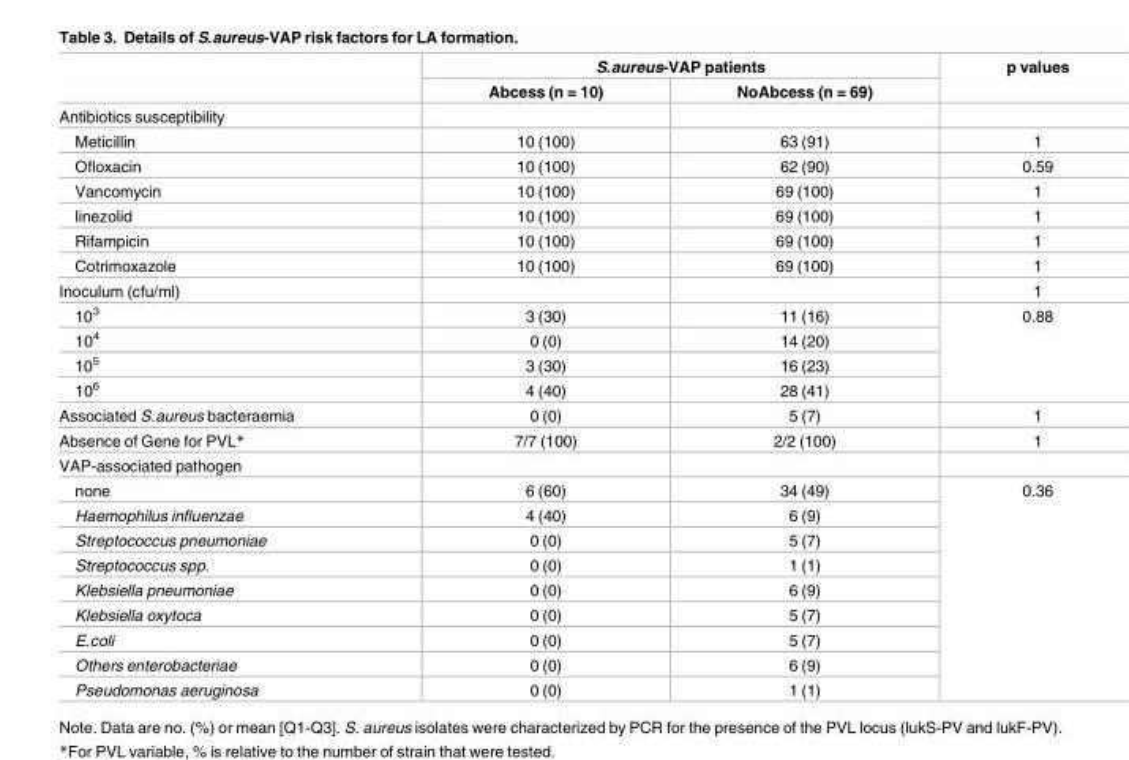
<table><thead><tr><td rowspan="2"></td><td colspan="2">S.aureus-VAP patients</td><td rowspan="2">p values</td></tr><tr><td>Abcess (n = 10)</td><td>NoAbcess (n = 69)</td></tr></thead><tbody><tr><td colspan="4">Antibiotics susceptibility</td></tr><tr><td>Meticillin</td><td>10 (100)</td><td>63 (91)</td><td>1</td></tr><tr><td>Ofloxacin</td><td>10 (100)</td><td>62 (90)</td><td>0.59</td></tr><tr><td>Vancomycin</td><td>10 (100)</td><td>69 (100)</td><td>1</td></tr><tr><td>linezolid</td><td>10 (100)</td><td>69 (100)</td><td>1</td></tr><tr><td>Rifampicin</td><td>10 (100)</td><td>69 (100)</td><td>1</td></tr><tr><td>Cotrimoxazole</td><td>10 (100)</td><td>69 (100)</td><td>1</td></tr><tr><td>Inoculum (cfu/ml)</td><td></td><td></td><td>1</td></tr><tr><td>10<sup>3</sup></td><td>3 (30)</td><td>11 (16)</td><td rowspan="4">0.88</td></tr><tr><td>10<sup>4</sup></td><td>0 (0)</td><td>14 (20)</td></tr><tr><td>10<sup>5</sup></td><td>3 (30)</td><td>16 (23)</td></tr><tr><td>10<sup>6</sup></td><td>4 (40)</td><td>28 (41)</td></tr><tr><td>Associated S.aureus bacteraemia</td><td>0 (0)</td><td>5 (7)</td><td>1</td></tr><tr><td>Absence of Gene for PVL*</td><td>7/7 (100)</td><td>2/2 (100)</td><td>1</td></tr><tr><td colspan="4">VAP-associated pathogen</td></tr><tr><td>none</td><td>6 (60)</td><td>34 (49)</td><td rowspan="9">0.36</td></tr><tr><td>Haemophilus influenzae</td><td>4 (40)</td><td>6 (9)</td></tr><tr><td>Streptococcus pneumoniae</td><td>0 (0)</td><td>5 (7)</td></tr><tr><td>Streptococcus spp.</td><td>0 (0)</td><td>1 (1)</td></tr><tr><td>Klebsiella pneumoniae</td><td>0 (0)</td><td>6 (9)</td></tr><tr><td>Klebsiella oxytoca</td><td>0 (0)</td><td>5 (7)</td></tr><tr><td>E.coli</td><td>0 (0)</td><td>5 (7)</td></tr><tr><td>Others enterobacteriae</td><td>0 (0)</td><td>6 (9)</td></tr><tr><td>Pseudomonas aeruginosa</td><td>0 (0)</td><td>1 (1)</td></tr></tbody></table>